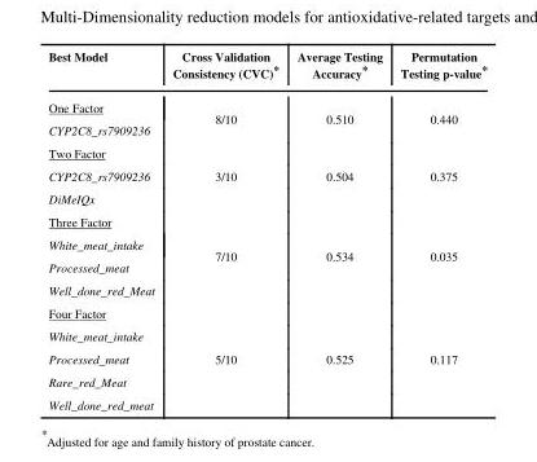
<table><thead><tr><td>Best Model</td><td>Cross Validation Consistency (CVC)*</td><td>Average Testing Accuracy*</td><td>Permutation Testing p-value*</td></tr></thead><tbody><tr><td>One Factor</td><td rowspan="2">8/10</td><td rowspan="2">0.510</td><td rowspan="2">0.440</td></tr><tr><td>CYP2C8_rs7909236</td></tr><tr><td colspan="4">Two Factor</td></tr><tr><td>CYP2C8_rs7909236</td><td>3/10</td><td>0.504</td><td>0.375</td></tr><tr><td colspan="4">DiMeIQx</td></tr><tr><td colspan="4">Three Factor</td></tr><tr><td>White_meat_intake</td><td rowspan="2">7/10</td><td rowspan="2">0.534</td><td rowspan="2">0.035</td></tr><tr><td>Processed_meat</td></tr><tr><td colspan="4">Well_done_red_Meat</td></tr><tr><td colspan="4">Four Factor</td></tr><tr><td colspan="4">White_meat_intake</td></tr><tr><td>Processed_meat</td><td>5/10</td><td>0.525</td><td>0.117</td></tr><tr><td colspan="4">Rare_red_Meat</td></tr><tr><td>Well_done_red_meat</td><td></td><td></td><td></td></tr></tbody></table>